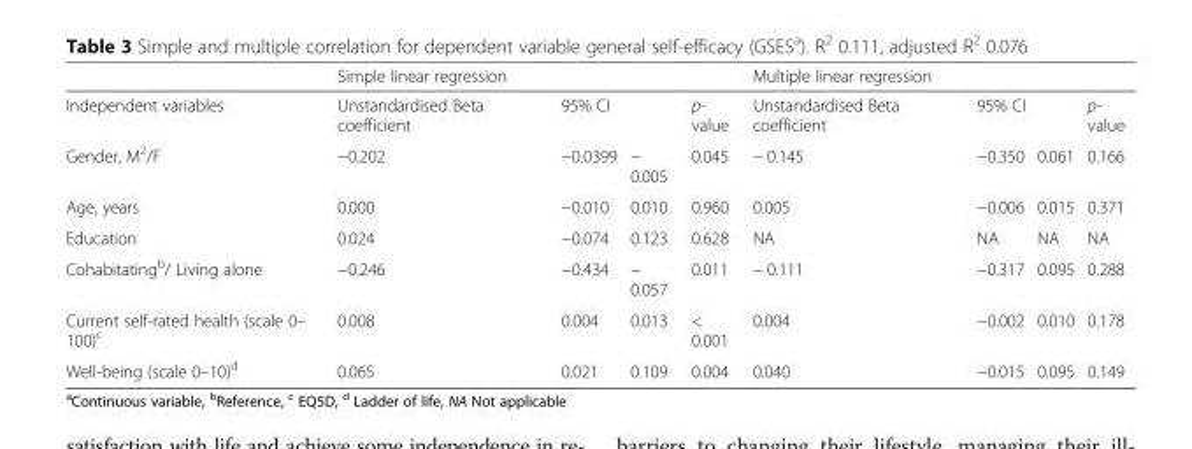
<table><thead><tr><td rowspan="3">Independent variables Gender, M<sup>2</sup>/F</td><td colspan="4">Simple linear regression</td><td colspan="4">Multiple linear regression</td></tr><tr><td rowspan="2">Unstandardised Beta coefficient −0.202</td><td colspan="2">95% CI</td><td rowspan="2">p- value 0.045</td><td rowspan="2">Unstandardised Beta coefficient − 0.145</td><td colspan="2">95% CI</td><td rowspan="2">p- value 0.166</td></tr><tr><td>−0.0399</td><td>− 0.005</td><td>−0.350</td><td>0.061</td></tr></thead><tbody><tr><td>Age, years</td><td>0.000</td><td>−0.010</td><td>0.010</td><td>0.960</td><td>0.005</td><td>−0.006</td><td>0.015</td><td>0.371</td></tr><tr><td>Education</td><td>0.024</td><td>−0.074</td><td>0.123</td><td>0.628</td><td>NA</td><td>NA</td><td>NA</td><td>NA</td></tr><tr><td>Cohabitating<sup>b</sup>/ Living alone</td><td>−0.246</td><td>−0.434</td><td>− 0.057</td><td>0.011</td><td>− 0.111</td><td>−0.317</td><td>0.095</td><td>0.288</td></tr><tr><td>Current self-rated health (scale 0– 100)<sup>c</sup></td><td>0.008</td><td>0.004</td><td>0.013</td><td>&lt; 0.001</td><td>0.004</td><td>−0.002</td><td>0.010</td><td>0.178</td></tr><tr><td>Well-being (scale 0–10)<sup>d</sup></td><td>0.065</td><td>0.021</td><td>0.109</td><td>0.004</td><td>0.040</td><td>−0.015</td><td>0.095</td><td>0.149</td></tr></tbody></table>